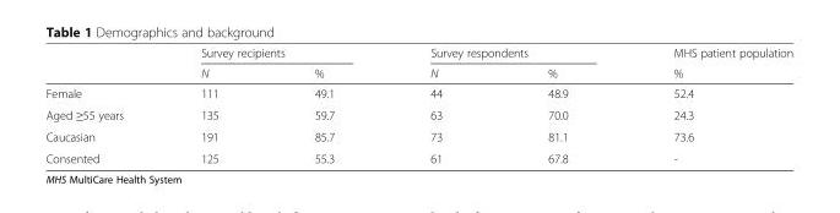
<table><thead><tr><td rowspan="2"></td><td colspan="2">Survey recipients</td><td colspan="2">Survey respondents</td><td rowspan="2">MHS patient population %</td></tr><tr><td>N</td><td>%</td><td>N</td><td>%</td></tr></thead><tbody><tr><td>Female</td><td>111</td><td>49.1</td><td>44</td><td>48.9</td><td>52.4</td></tr><tr><td>Aged ≥55 years</td><td>135</td><td>59.7</td><td>63</td><td>70.0</td><td>24.3</td></tr><tr><td>Caucasian</td><td>191</td><td>85.7</td><td>73</td><td>81.1</td><td>73.6</td></tr><tr><td>Consented</td><td>125</td><td>55.3</td><td>61</td><td>67.8</td><td>-</td></tr></tbody></table>